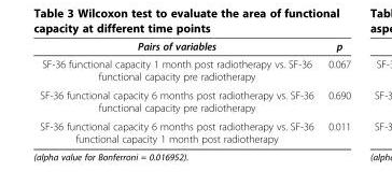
<table><thead><tr><td>Pairs of variables</td><td>p</td></tr></thead><tbody><tr><td>SF-36 functional capacity 1 month post radiotherapy vs. SF-36 functional capacity pre radiotherapy</td><td>0.067</td></tr><tr><td>SF-36 functional capacity 6 months post radiotherapy vs. SF-36 functional capacity pre radiotherapy</td><td>0.690</td></tr><tr><td>SF-36 functional capacity 6 months post radiotherapy vs. SF-36 functional capacity 1 month post radiotherapy</td><td>0.011</td></tr></tbody></table>